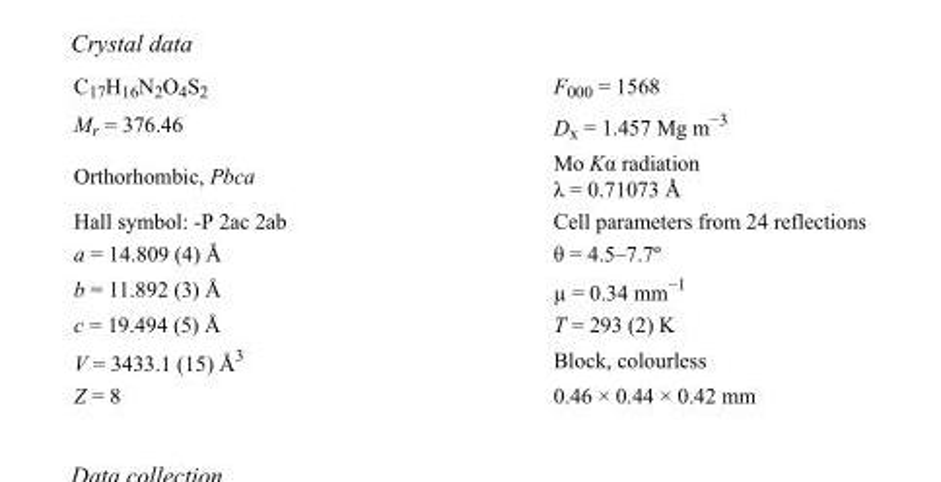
<table><tbody><tr><td>C<sub>17</sub>H<sub>16</sub>N<sub>2</sub>O<sub>4</sub>S<sub>2</sub></td><td>F000 = 1568</td></tr><tr><td>M<sub>r</sub> = 376.46</td><td>D<sub>x</sub> = 1.457 Mg m<sup>−3</sup></td></tr><tr><td>Orthorhombic, Pbca</td><td>Mo Kα radiation λ = 0.71073 Å</td></tr><tr><td>Hall symbol: -P 2ac 2ab</td><td>Cell parameters from 24 reflections</td></tr><tr><td>a = 14.809 (4) Å</td><td>θ = 4.5–7.7º</td></tr><tr><td>b = 11.892 (3) Å</td><td>µ = 0.34 mm<sup>−1</sup></td></tr><tr><td>c = 19.494 (5) Å</td><td>T = 293 (2) K</td></tr><tr><td>V = 3433.1 (15) Å<sup>3</sup></td><td>Block, colourless</td></tr><tr><td>Z = 8</td><td>0.46 × 0.44 × 0.42 mm</td></tr></tbody></table>